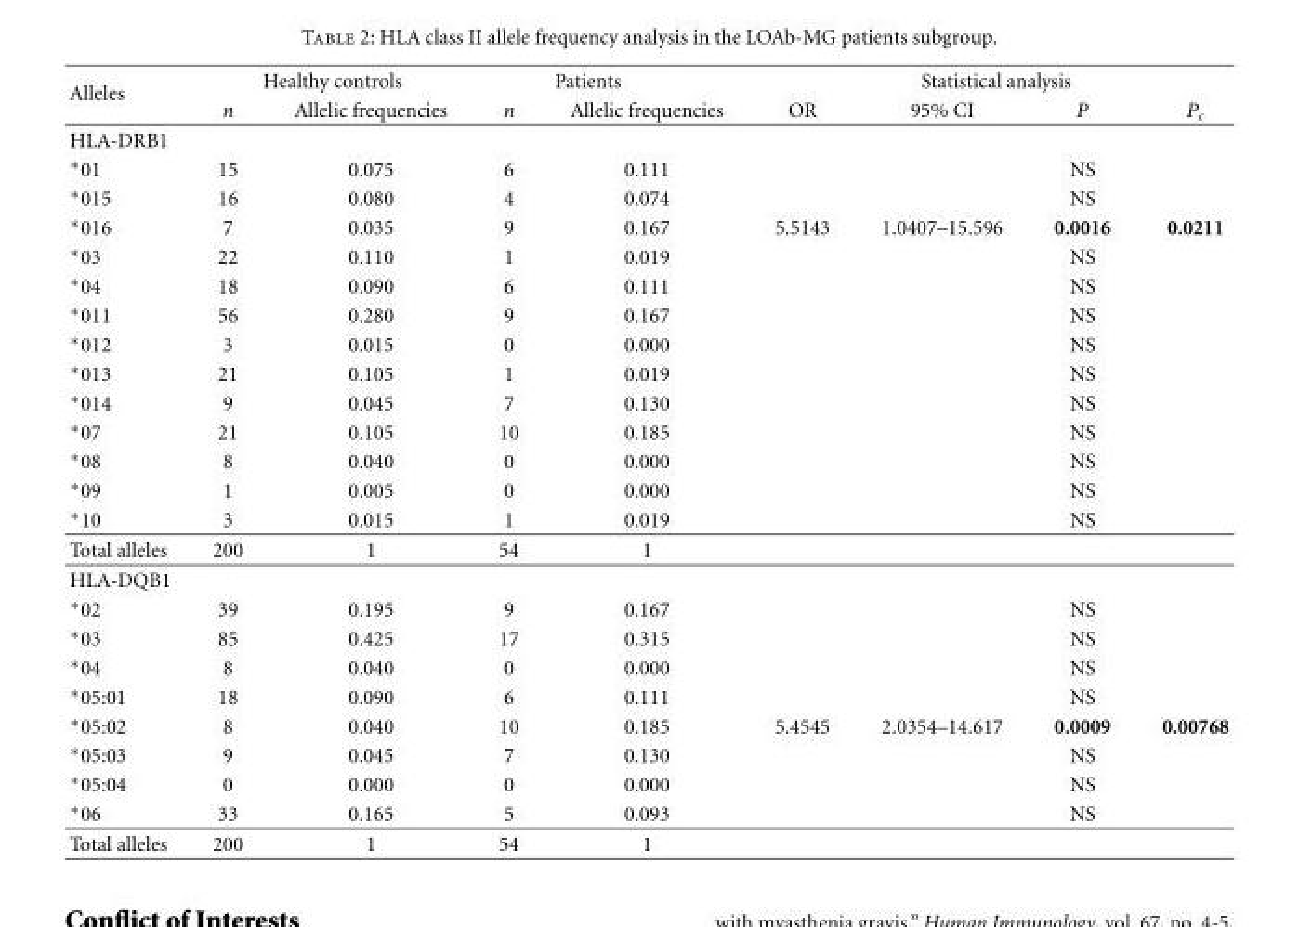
<table><thead><tr><td rowspan="2">Alleles</td><td colspan="2">Healthy controls</td><td colspan="2">Patients</td><td rowspan="2">OR</td><td colspan="2">Statistical analysis</td><td rowspan="2">P<sub>c</sub></td></tr><tr><td>n</td><td>Allelic frequencies</td><td>n</td><td>Allelic frequencies</td><td>95% CI</td><td>P</td></tr></thead><tbody><tr><td colspan="9">HLA-DRB1</td></tr><tr><td>∗01</td><td>15</td><td>0.075</td><td>6</td><td>0.111</td><td></td><td></td><td>NS</td><td></td></tr><tr><td>∗015</td><td>16</td><td>0.080</td><td>4</td><td>0.074</td><td></td><td></td><td>NS</td><td></td></tr><tr><td>∗016</td><td>7</td><td>0.035</td><td>9</td><td>0.167</td><td>5.5143</td><td>1.0407–15.596</td><td>0.0016</td><td>0.0211</td></tr><tr><td>∗03</td><td>22</td><td>0.110</td><td>1</td><td>0.019</td><td></td><td></td><td>NS</td><td></td></tr><tr><td>∗04</td><td>18</td><td>0.090</td><td>6</td><td>0.111</td><td></td><td></td><td>NS</td><td></td></tr><tr><td>∗011</td><td>56</td><td>0.280</td><td>9</td><td>0.167</td><td></td><td></td><td>NS</td><td></td></tr><tr><td>∗012</td><td>3</td><td>0.015</td><td>0</td><td>0.000</td><td></td><td></td><td>NS</td><td></td></tr><tr><td>∗013</td><td>21</td><td>0.105</td><td>1</td><td>0.019</td><td></td><td></td><td>NS</td><td></td></tr><tr><td>∗014</td><td>9</td><td>0.045</td><td>7</td><td>0.130</td><td></td><td></td><td>NS</td><td></td></tr><tr><td>∗07</td><td>21</td><td>0.105</td><td>10</td><td>0.185</td><td></td><td></td><td>NS</td><td></td></tr><tr><td>∗08</td><td>8</td><td>0.040</td><td>0</td><td>0.000</td><td></td><td></td><td>NS</td><td></td></tr><tr><td>∗09</td><td>1</td><td>0.005</td><td>0</td><td>0.000</td><td></td><td></td><td>NS</td><td></td></tr><tr><td>∗10</td><td>3</td><td>0.015</td><td>1</td><td>0.019</td><td></td><td></td><td>NS</td><td></td></tr><tr><td>Total alleles</td><td>200</td><td>1</td><td>54</td><td>1</td><td></td><td></td><td></td><td></td></tr><tr><td colspan="9">HLA-DQB1</td></tr><tr><td>∗02</td><td>39</td><td>0.195</td><td>9</td><td>0.167</td><td></td><td></td><td>NS</td><td></td></tr><tr><td>∗03</td><td>85</td><td>0.425</td><td>17</td><td>0.315</td><td></td><td></td><td>NS</td><td></td></tr><tr><td>∗04</td><td>8</td><td>0.040</td><td>0</td><td>0.000</td><td></td><td></td><td>NS</td><td></td></tr><tr><td>∗05:01</td><td>18</td><td>0.090</td><td>6</td><td>0.111</td><td></td><td></td><td>NS</td><td></td></tr><tr><td>∗05:02</td><td>8</td><td>0.040</td><td>10</td><td>0.185</td><td>5.4545</td><td>2.0354–14.617</td><td>0.0009</td><td>0.00768</td></tr><tr><td>∗05:03</td><td>9</td><td>0.045</td><td>7</td><td>0.130</td><td></td><td></td><td>NS</td><td></td></tr><tr><td>∗05:04</td><td>0</td><td>0.000</td><td>0</td><td>0.000</td><td></td><td></td><td>NS</td><td></td></tr><tr><td>∗06</td><td>33</td><td>0.165</td><td>5</td><td>0.093</td><td></td><td></td><td>NS</td><td></td></tr><tr><td>Total alleles</td><td>200</td><td>1</td><td>54</td><td>1</td><td></td><td></td><td></td><td></td></tr></tbody></table>